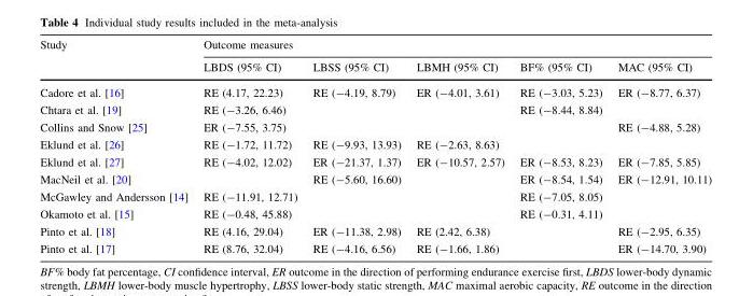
<table><thead><tr><td rowspan="2">Study</td><td colspan="5">Outcome measures</td></tr><tr><td>LBDS (95% CI)</td><td>LBSS (95% CI)</td><td>LBMH (95% CI)</td><td>BF% (95% CI)</td><td>MAC (95% CI)</td></tr></thead><tbody><tr><td>Cadore et al. [16]</td><td>RE (4.17, 22.23)</td><td>RE (-4.19, 8.79)</td><td>ER (-4.01, 3.61)</td><td>RE (-3.03, 5.23)</td><td>ER (-8.77, 6.37)</td></tr><tr><td>Chtara et al. [19]</td><td>RE (-3.26, 6.46)</td><td></td><td></td><td>RE (-8.44, 8.84)</td><td></td></tr><tr><td>Collins and Snow [25]</td><td>ER (-7.55, 3.75)</td><td></td><td></td><td></td><td>RE (-4.88, 5.28)</td></tr><tr><td>Eklund et al. [26]</td><td>RE (-1.72, 11.72)</td><td>RE (-9.93, 13.93)</td><td>RE (-2.63, 8.63)</td><td></td><td></td></tr><tr><td>Eklund et al. [27]</td><td>RE (-4.02, 12.02)</td><td>ER (-21.37, 1.37)</td><td>ER (-10.57, 2.57)</td><td>ER (-8.53, 8.23)</td><td>ER (-7.85, 5.85)</td></tr><tr><td>MacNeil et al. [20]</td><td></td><td>RE (-5.60, 16.60)</td><td></td><td>ER (-8.54, 1.54)</td><td>ER (-12.91, 10.11)</td></tr><tr><td>McGawley and Andersson [14]</td><td>RE (-11.91, 12.71)</td><td></td><td></td><td>RE (-7.05, 8.05)</td><td></td></tr><tr><td>Okamoto et al. [15]</td><td>RE (-0.48, 45.88)</td><td></td><td></td><td>RE (-0.31, 4.11)</td><td></td></tr><tr><td>Pinto et al. [18]</td><td>RE (4.16, 29.04)</td><td>ER (-11.38, 2.98)</td><td>RE (2.42, 6.38)</td><td></td><td>RE (-2.95, 6.35)</td></tr><tr><td>Pinto et al. [17]</td><td>RE (8.76, 32.04)</td><td>RE (-4.16, 6.56)</td><td>RE (-1.66, 1.86)</td><td></td><td>ER (-14.70, 3.90)</td></tr></tbody></table>